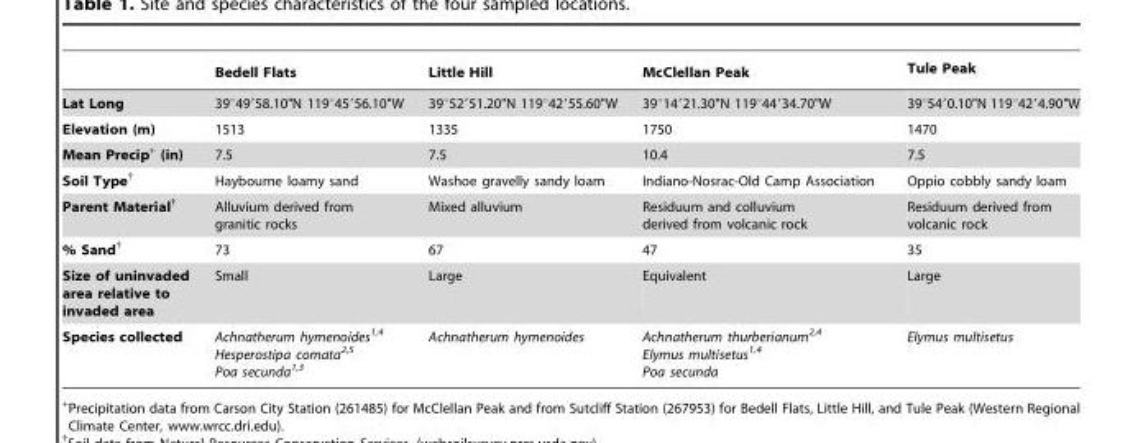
<table><thead><tr><td></td><td>Bedell Flats</td><td>Little Hill</td><td>McClellan Peak</td><td>Tule Peak</td></tr></thead><tbody><tr><td>Lat Long</td><td>39°49′58.10&quot;N 119°45′56.10&quot;W</td><td>39°52′51.20&quot;N 119°42′55.60&quot;W</td><td>39°14′21.30&quot;N 119°44′34.70&quot;W</td><td>39°54′0.10&quot;N 119°42′4.90&quot;W</td></tr><tr><td>Elevation (m)</td><td>1513</td><td>1335</td><td>1750</td><td>1470</td></tr><tr><td>Mean Precip+ (in)</td><td>7.5</td><td>7.5</td><td>10.4</td><td>7.5</td></tr><tr><td>Soil Type†</td><td>Haybourne loamy sand</td><td>Washoe gravelly sandy loam</td><td>Indiano-Nosrac-Old Camp Association</td><td>Oppio cobbly sandy loam</td></tr><tr><td>Parent Material†</td><td>Alluvium derived from granitic rocks</td><td>Mixed alluvium</td><td>Residuum and colluvium derived from volcanic rock</td><td>Residuum derived from volcanic rock</td></tr><tr><td>% Sand†</td><td>73</td><td>67</td><td>47</td><td>35</td></tr><tr><td>Size of uninvaded area relative to invaded area</td><td>Small</td><td>Large</td><td>Equivalent</td><td>Large</td></tr><tr><td>Species collected</td><td>Achnatherum hymenoides1,4 Hesperostipa comata2,5 Poa secunda1,3</td><td>Achnatherum hymenoides</td><td>Achnatherum thurberianum2,4 Elymus multisetus1,4 Poa secunda</td><td>Elymus multisetus</td></tr></tbody></table>